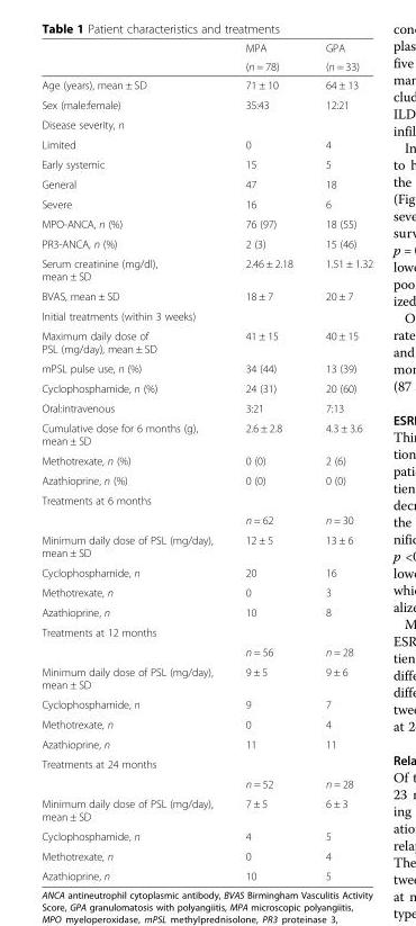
<table><thead><tr><td rowspan="2"></td><td rowspan="2">MPA (n = 78)</td><td rowspan="2">GPA (n = 33)</td></tr><tr></tr></thead><tbody><tr><td>Age (years), mean ± SD</td><td>71 ± 10</td><td>64 ± 13</td></tr><tr><td>Sex (male:female)</td><td>35:43</td><td>12:21</td></tr><tr><td colspan="3">Disease severity, n</td></tr><tr><td>Limited</td><td>0</td><td>4</td></tr><tr><td>Early systemic</td><td>15</td><td>5</td></tr><tr><td>General</td><td>47</td><td>18</td></tr><tr><td>Severe</td><td>16</td><td>6</td></tr><tr><td>MPO-ANCA, n (%)</td><td>76 (97)</td><td>18 (55)</td></tr><tr><td>PR3-ANCA, n (%)</td><td>2 (3)</td><td>15 (46)</td></tr><tr><td>Serum creatinine (mg/dl), mean ± SD</td><td>2.46 ± 2.18</td><td>1.51 ± 1.32</td></tr><tr><td>BVAS, mean ± SD</td><td>18 ± 7</td><td>20 ± 7</td></tr><tr><td colspan="3">Initial treatments (within 3 weeks)</td></tr><tr><td>Maximum daily dose of PSL (mg/day), mean ± SD</td><td>41 ± 15</td><td>40 ± 15</td></tr><tr><td>mPSL pulse use, n (%)</td><td>34 (44)</td><td>13 (39)</td></tr><tr><td>Cyclophosphamide, n (%)</td><td>24 (31)</td><td>20 (60)</td></tr><tr><td>Oral:intravenous</td><td>3:21</td><td>7:13</td></tr><tr><td>Cumulative dose for 6 months (g), mean ± SD</td><td>2.6 ± 2.8</td><td>4.3 ± 3.6</td></tr><tr><td>Methotrexate, n (%)</td><td>0 (0)</td><td>2 (6)</td></tr><tr><td>Azathioprine, n (%)</td><td>0 (0)</td><td>0 (0)</td></tr><tr><td colspan="3">Treatments at 6 months</td></tr><tr><td></td><td>n = 62</td><td>n = 30</td></tr><tr><td>Minimum daily dose of PSL (mg/day), mean ± SD</td><td>12 ± 5</td><td>13 ± 6</td></tr><tr><td>Cyclophosphamide, n</td><td>20</td><td>16</td></tr><tr><td>Methotrexate, n</td><td>0</td><td>3</td></tr><tr><td>Azathioprine, n</td><td>10</td><td>8</td></tr><tr><td colspan="3">Treatments at 12 months</td></tr><tr><td></td><td>n = 56</td><td>n = 28</td></tr><tr><td>Minimum daily dose of PSL (mg/day), mean ± SD</td><td>9 ± 5</td><td>9 ± 6</td></tr><tr><td>Cyclophosphamide, n</td><td>9</td><td>7</td></tr><tr><td>Methotrexate, n</td><td>0</td><td>4</td></tr><tr><td>Azathioprine, n</td><td>11</td><td>11</td></tr><tr><td colspan="3">Treatments at 24 months</td></tr><tr><td></td><td>n = 52</td><td>n = 28</td></tr><tr><td>Minimum daily dose of PSL (mg/day), mean ± SD</td><td>7 ± 5</td><td>6 ± 3</td></tr><tr><td>Cyclophosphamide, n</td><td>4</td><td>5</td></tr><tr><td>Methotrexate, n</td><td>0</td><td>4</td></tr><tr><td>Azathioprine, n</td><td>10</td><td>5</td></tr></tbody></table>